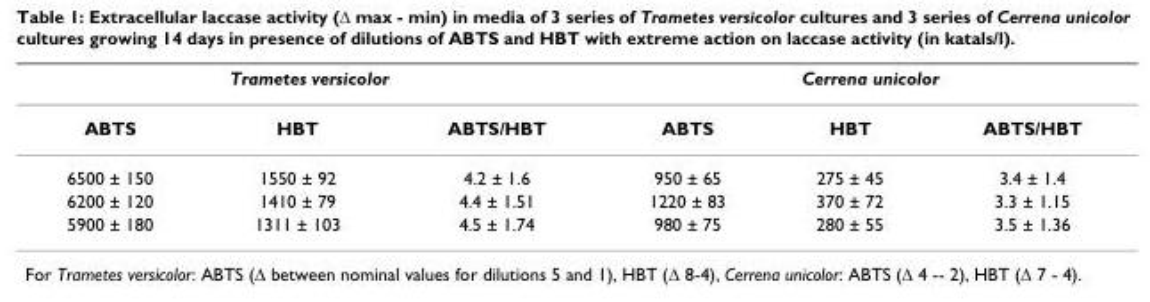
<table><thead><tr><td colspan="3">Trametes versicolor</td><td colspan="3">Cerrena unicolor</td></tr><tr><td>ABTS</td><td>HBT</td><td>ABTS/HBT</td><td>ABTS</td><td>HBT</td><td>ABTS/HBT</td></tr></thead><tbody><tr><td>6500 ± 150</td><td>1550 ± 92</td><td>4.2 ± 1.6</td><td>950 ± 65</td><td>275 ± 45</td><td>3.4 ± 1.4</td></tr><tr><td>6200 ± 120</td><td>1410 ± 79</td><td>4.4 ± 1.51</td><td>1220 ± 83</td><td>370 ± 72</td><td>3.3 ± 1.15</td></tr><tr><td>5900 ± 180</td><td>1311 ± 103</td><td>4.5 ± 1.74</td><td>980 ± 75</td><td>280 ± 55</td><td>3.5 ± 1.36</td></tr></tbody></table>